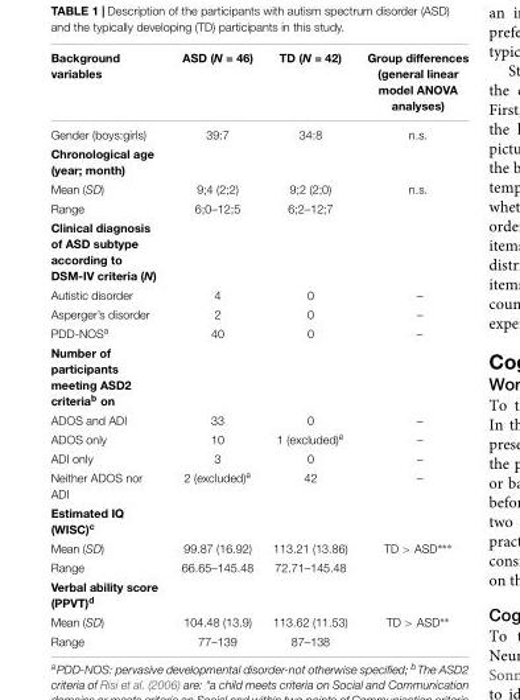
<table><thead><tr><td>Background variables</td><td>ASD (N = 46)</td><td>TD (N = 42)</td><td>Group differences (general linear model ANOVA analyses)</td></tr></thead><tbody><tr><td>Gender (boys:girls)</td><td>39:7</td><td>34:8</td><td>n.s.</td></tr><tr><td colspan="4">Chronological age (year; month)</td></tr><tr><td>Mean (SD)</td><td>9;4 (2;2)</td><td>9;2 (2;0)</td><td>n.s.</td></tr><tr><td>Range</td><td>6;0–12;5</td><td>6;2–12;7</td><td></td></tr><tr><td colspan="4">Clinical diagnosis of ASD subtype according to DSM-IV criteria (N)</td></tr><tr><td>Autistic disorder</td><td>4</td><td>0</td><td>–</td></tr><tr><td>Asperger’s disorder</td><td>2</td><td>0</td><td>–</td></tr><tr><td>PDD-NOS<sup>a</sup></td><td>40</td><td>0</td><td>–</td></tr><tr><td colspan="4">Number of participants meeting ASD2 criteria<sup>b</sup> on</td></tr><tr><td>ADOS and ADI</td><td>33</td><td>0</td><td>–</td></tr><tr><td>ADOS only</td><td>10</td><td>1 (excluded)<sup>e</sup></td><td>–</td></tr><tr><td>ADI only</td><td>3</td><td>0</td><td>–</td></tr><tr><td>Neither ADOS nor ADI</td><td>2 (excluded)<sup>e</sup></td><td>42</td><td>–</td></tr><tr><td colspan="4">Estimated IQ (WISC)<sup>c</sup></td></tr><tr><td>Mean (SD)</td><td>99.87 (16.92)</td><td>113.21 (13.86)</td><td>TD &gt; ASD∗∗∗</td></tr><tr><td>Range</td><td>66.65–145.48</td><td>72.71–145.48</td><td></td></tr><tr><td colspan="4">Verbal ability score (PPVT)<sup>d</sup></td></tr><tr><td>Mean (SD)</td><td>104.48 (13.9)</td><td>113.62 (11.53)</td><td>TD &gt; ASD∗∗</td></tr><tr><td>Range</td><td>77–139</td><td>87–138</td><td></td></tr></tbody></table>